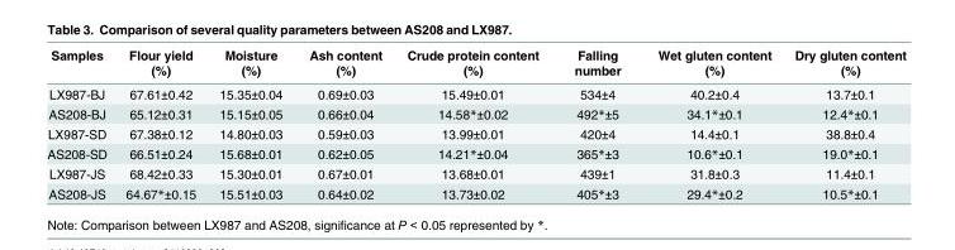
<table><thead><tr><td>Samples</td><td>Flour yield (%)</td><td>Moisture (%)</td><td>Ash content (%)</td><td>Crude protein content (%)</td><td>Falling number</td><td>Wet gluten content (%)</td><td>Dry gluten content (%)</td></tr></thead><tbody><tr><td>LX987-BJ</td><td>67.61±0.42</td><td>15.35±0.04</td><td>0.69±0.03</td><td>15.49±0.01</td><td>534±4</td><td>40.2±0.4</td><td>13.7±0.1</td></tr><tr><td>AS208-BJ</td><td>65.12±0.31</td><td>15.15±0.05</td><td>0.66±0.04</td><td>14.58*±0.02</td><td>492*±5</td><td>34.1*±0.1</td><td>12.4*±0.1</td></tr><tr><td>LX987-SD</td><td>67.38±0.12</td><td>14.80±0.03</td><td>0.59±0.03</td><td>13.99±0.01</td><td>420±4</td><td>14.4±0.1</td><td>38.8±0.4</td></tr><tr><td>AS208-SD</td><td>66.51±0.24</td><td>15.68±0.01</td><td>0.62±0.05</td><td>14.21*±0.04</td><td>365*±3</td><td>10.6*±0.1</td><td>19.0*±0.1</td></tr><tr><td>LX987-JS</td><td>68.42±0.33</td><td>15.30±0.01</td><td>0.67±0.01</td><td>13.68±0.01</td><td>439±1</td><td>31.8±0.3</td><td>11.4±0.1</td></tr><tr><td>AS208-JS</td><td>64.67*±0.15</td><td>15.51±0.03</td><td>0.64±0.02</td><td>13.73±0.02</td><td>405*±3</td><td>29.4*±0.2</td><td>10.5*±0.1</td></tr></tbody></table>